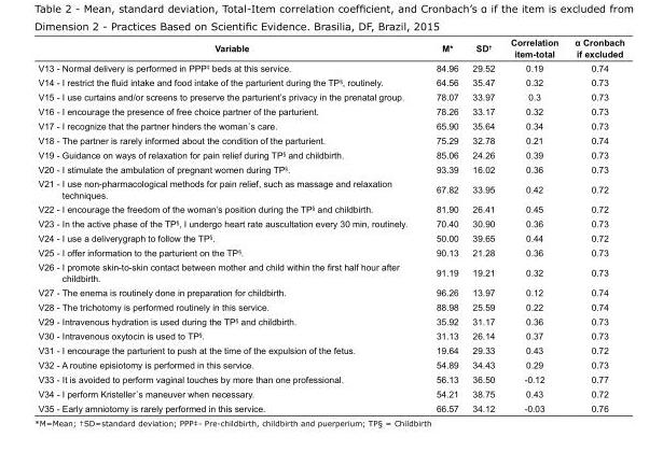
<table><tbody><tr><td>Variable</td><td>M*</td><td>SD<sup>†</sup></td><td>Correlation item-total</td><td>α Cronbach if excluded</td></tr><tr><td>V13 - Normal delivery is performed in PPP<sup>‡</sup> beds at this service.</td><td>84.96</td><td>29.52</td><td>0.19</td><td>0.74</td></tr><tr><td>V14 - I restrict the fluid intake and food intake of the parturient during the TP<sup>§</sup>, routinely.</td><td>64.56</td><td>35.47</td><td>0.32</td><td>0.73</td></tr><tr><td>V15 - I use curtains and/or screens to preserve the parturient’s privacy in the prenatal group.</td><td>78.07</td><td>33.97</td><td>0.3</td><td>0.73</td></tr><tr><td>V16 - I encourage the presence of free choice partner of the parturient.</td><td>78.26</td><td>33.17</td><td>0.32</td><td>0.73</td></tr><tr><td>V17 - I recognize that the partner hinders the woman´s care.</td><td>65.90</td><td>35.64</td><td>0.34</td><td>0.73</td></tr><tr><td>V18 - The partner is rarely informed about the condition of the parturient.</td><td>75.29</td><td>32.78</td><td>0.21</td><td>0.74</td></tr><tr><td>V19 - Guidance on ways of relaxation for pain relief during TP<sup>§</sup> and childbirth.</td><td>85.06</td><td>24.26</td><td>0.39</td><td>0.73</td></tr><tr><td>V20 - I stimulate the ambulation of pregnant women during TP<sup>§</sup>.</td><td>93.39</td><td>16.02</td><td>0.36</td><td>0.73</td></tr><tr><td>V21 - I use non-pharmacological methods for pain relief, such as massage and relaxation techniques.</td><td>67.82</td><td>33.95</td><td>0.42</td><td>0.72</td></tr><tr><td>V22 - I encourage the freedom of the woman’s position during the TP<sup>§</sup> and childbirth.</td><td>81.90</td><td>26.41</td><td>0.45</td><td>0.72</td></tr><tr><td>V23 - In the active phase of the TP<sup>§</sup>, I undergo heart rate auscultation every 30 min, routinely.</td><td>70.40</td><td>30.90</td><td>0.36</td><td>0.73</td></tr><tr><td>V24 - I use a deliverygraph to follow the TP<sup>§</sup>.</td><td>50.00</td><td>39.65</td><td>0.44</td><td>0.72</td></tr><tr><td>V25 - I offer information to the parturient on the TP<sup>§</sup>.</td><td>90.13</td><td>21.28</td><td>0.36</td><td>0.73</td></tr><tr><td>V26 - I promote skin-to-skin contact between mother and child within the first half hour after childbirth.</td><td>91.19</td><td>19.21</td><td>0.32</td><td>0.73</td></tr><tr><td>V27 - The enema is routinely done in preparation for childbirth.</td><td>96.26</td><td>13.97</td><td>0.12</td><td>0.74</td></tr><tr><td>V28 - The trichotomy is performed routinely in this service.</td><td>88.98</td><td>25.59</td><td>0.22</td><td>0.74</td></tr><tr><td>V29 - Intravenous hydration is used during the TP<sup>§</sup> and childbirth.</td><td>35.92</td><td>31.17</td><td>0.36</td><td>0.73</td></tr><tr><td>V30 - Intravenous oxytocin is used to TP<sup>§</sup>.</td><td>31.13</td><td>26.14</td><td>0.37</td><td>0.73</td></tr><tr><td>V31 - I encourage the parturient to push at the time of the expulsion of the fetus.</td><td>19.64</td><td>29.33</td><td>0.43</td><td>0.72</td></tr><tr><td>V32 - A routine episiotomy is performed in this service.</td><td>54.89</td><td>34.43</td><td>0.29</td><td>0.73</td></tr><tr><td>V33 - It is avoided to perform vaginal touches by more than one professional.</td><td>56.13</td><td>36.50</td><td>-0.12</td><td>0.77</td></tr><tr><td>V34 - I perform Kristeller´s maneuver when necessary.</td><td>54.21</td><td>38.75</td><td>0.43</td><td>0.72</td></tr><tr><td>V35 - Early amniotomy is rarely performed in this service.</td><td>66.57</td><td>34.12</td><td>-0.03</td><td>0.76</td></tr></tbody></table>